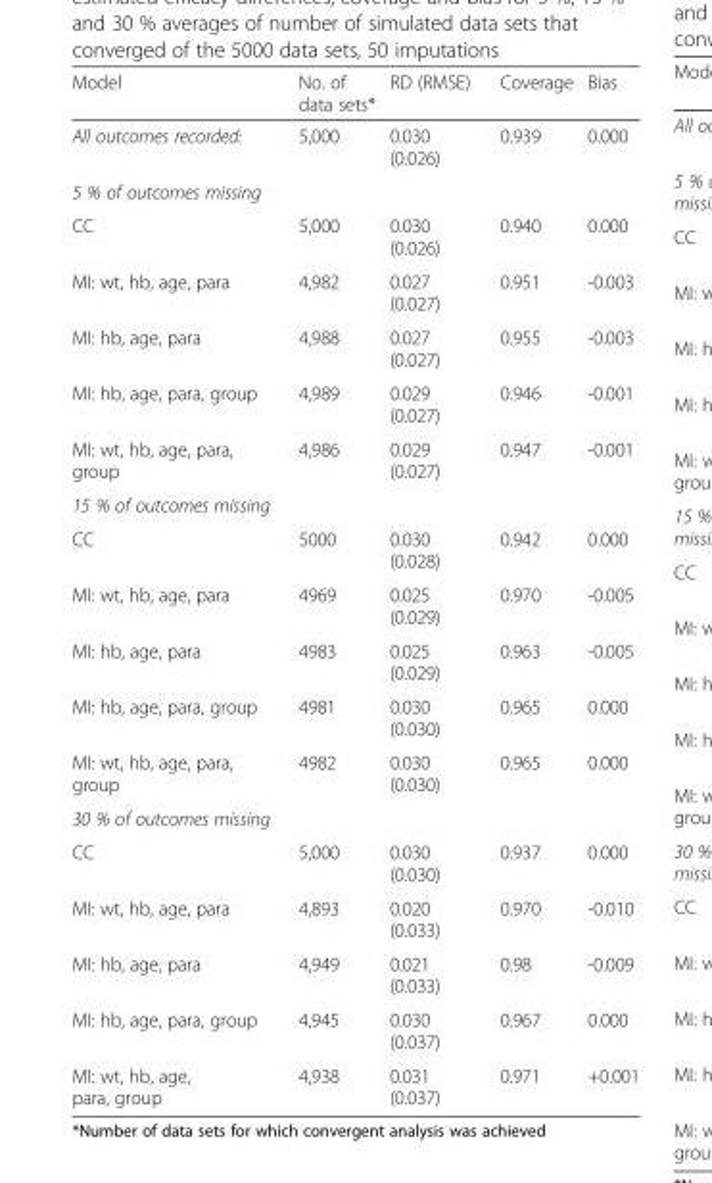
<table><thead><tr><td>Model</td><td>No. of data sets*</td><td>RD (RMSE)</td><td>Coverage</td><td>Bias</td></tr></thead><tbody><tr><td>All outcomes recorded:</td><td>5,000</td><td>0.030 (0.026)</td><td>0.939</td><td>0.000</td></tr><tr><td colspan="5">5 % of outcomes missing</td></tr><tr><td>CC</td><td>5,000</td><td>0.030 (0.026)</td><td>0.940</td><td>0.000</td></tr><tr><td>MI: wt, hb, age, para</td><td>4,982</td><td>0.027 (0.027)</td><td>0.951</td><td>-0.003</td></tr><tr><td>MI: hb, age, para</td><td>4,988</td><td>0.027 (0.027)</td><td>0.955</td><td>-0.003</td></tr><tr><td>MI: hb, age, para, group</td><td>4,989</td><td>0.029 (0.027)</td><td>0.946</td><td>-0.001</td></tr><tr><td>MI: wt, hb, age, para, group</td><td>4,986</td><td>0.029 (0.027)</td><td>0.947</td><td>-0.001</td></tr><tr><td colspan="5">15 % of outcomes missing</td></tr><tr><td>CC</td><td>5000</td><td>0.030 (0.028)</td><td>0.942</td><td>0.000</td></tr><tr><td>MI: wt, hb, age, para</td><td>4969</td><td>0.025 (0.029)</td><td>0.970</td><td>-0.005</td></tr><tr><td>MI: hb, age, para</td><td>4983</td><td>0.025 (0.029)</td><td>0.963</td><td>-0.005</td></tr><tr><td>MI: hb, age, para, group</td><td>4981</td><td>0.030 (0.030)</td><td>0.965</td><td>0.000</td></tr><tr><td>MI: wt, hb, age, para, group</td><td>4982</td><td>0.030 (0.030)</td><td>0.965</td><td>0.000</td></tr><tr><td colspan="5">30 % of outcomes missing</td></tr><tr><td>CC</td><td>5,000</td><td>0.030 (0.030)</td><td>0.937</td><td>0.000</td></tr><tr><td>MI: wt, hb, age, para</td><td>4,893</td><td>0.020 (0.033)</td><td>0.970</td><td>-0.010</td></tr><tr><td>MI: hb, age, para</td><td>4,949</td><td>0.021 (0.033)</td><td>0.98</td><td>-0.009</td></tr><tr><td>MI: hb, age, para, group</td><td>4,945</td><td>0.030 (0.037)</td><td>0.967</td><td>0.000</td></tr><tr><td>MI: wt, hb, age, para, group</td><td>4,938</td><td>0.031 (0.037)</td><td>0.971</td><td>+0.001</td></tr></tbody></table>